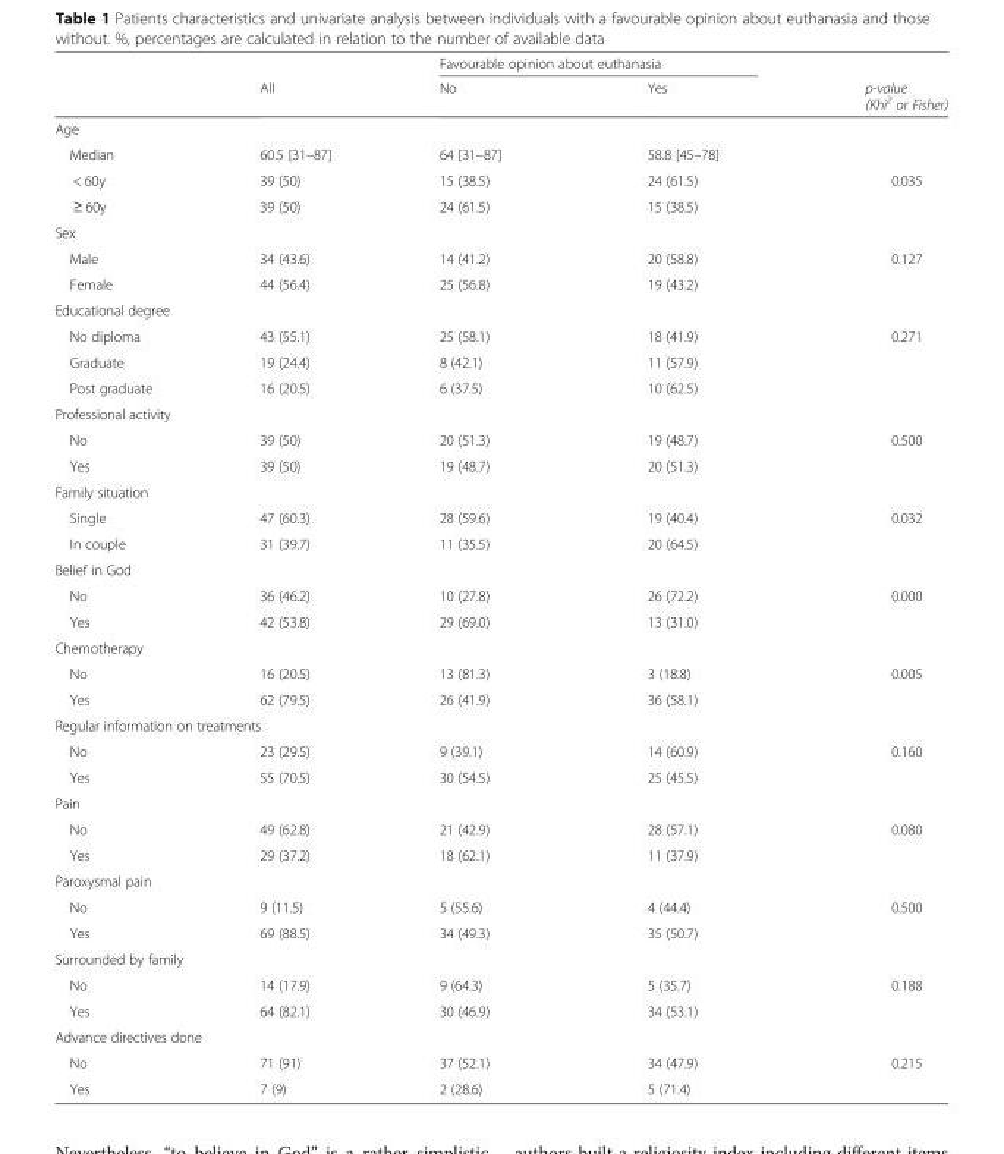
<table><thead><tr><td rowspan="2"></td><td rowspan="2">All</td><td colspan="2">Favourable opinion about euthanasia</td><td rowspan="2">p-value (Khi<sup>2</sup> or Fisher)</td></tr><tr><td>No</td><td>Yes</td></tr></thead><tbody><tr><td colspan="5">Age</td></tr><tr><td>Median</td><td>60.5 [31–87]</td><td>64 [31–87]</td><td>58.8 [45–78]</td><td></td></tr><tr><td>&lt; 60y</td><td>39 (50)</td><td>15 (38.5)</td><td>24 (61.5)</td><td>0.035</td></tr><tr><td>≥ 60y</td><td>39 (50)</td><td>24 (61.5)</td><td>15 (38.5)</td><td></td></tr><tr><td colspan="5">Sex</td></tr><tr><td>Male</td><td>34 (43.6)</td><td>14 (41.2)</td><td>20 (58.8)</td><td>0.127</td></tr><tr><td>Female</td><td>44 (56.4)</td><td>25 (56.8)</td><td>19 (43.2)</td><td></td></tr><tr><td colspan="5">Educational degree</td></tr><tr><td>No diploma</td><td>43 (55.1)</td><td>25 (58.1)</td><td>18 (41.9)</td><td>0.271</td></tr><tr><td>Graduate</td><td>19 (24.4)</td><td>8 (42.1)</td><td>11 (57.9)</td><td></td></tr><tr><td>Post graduate</td><td>16 (20.5)</td><td>6 (37.5)</td><td>10 (62.5)</td><td></td></tr><tr><td colspan="5">Professional activity</td></tr><tr><td>No</td><td>39 (50)</td><td>20 (51.3)</td><td>19 (48.7)</td><td>0.500</td></tr><tr><td>Yes</td><td>39 (50)</td><td>19 (48.7)</td><td>20 (51.3)</td><td></td></tr><tr><td colspan="5">Family situation</td></tr><tr><td>Single</td><td>47 (60.3)</td><td>28 (59.6)</td><td>19 (40.4)</td><td>0.032</td></tr><tr><td>In couple</td><td>31 (39.7)</td><td>11 (35.5)</td><td>20 (64.5)</td><td></td></tr><tr><td colspan="5">Belief in God</td></tr><tr><td>No</td><td>36 (46.2)</td><td>10 (27.8)</td><td>26 (72.2)</td><td>0.000</td></tr><tr><td>Yes</td><td>42 (53.8)</td><td>29 (69.0)</td><td>13 (31.0)</td><td></td></tr><tr><td colspan="5">Chemotherapy</td></tr><tr><td>No</td><td>16 (20.5)</td><td>13 (81.3)</td><td>3 (18.8)</td><td>0.005</td></tr><tr><td>Yes</td><td>62 (79.5)</td><td>26 (41.9)</td><td>36 (58.1)</td><td></td></tr><tr><td colspan="5">Regular information on treatments</td></tr><tr><td>No</td><td>23 (29.5)</td><td>9 (39.1)</td><td>14 (60.9)</td><td>0.160</td></tr><tr><td>Yes</td><td>55 (70.5)</td><td>30 (54.5)</td><td>25 (45.5)</td><td></td></tr><tr><td colspan="5">Pain</td></tr><tr><td>No</td><td>49 (62.8)</td><td>21 (42.9)</td><td>28 (57.1)</td><td>0.080</td></tr><tr><td>Yes</td><td>29 (37.2)</td><td>18 (62.1)</td><td>11 (37.9)</td><td></td></tr><tr><td colspan="5">Paroxysmal pain</td></tr><tr><td>No</td><td>9 (11.5)</td><td>5 (55.6)</td><td>4 (44.4)</td><td>0.500</td></tr><tr><td>Yes</td><td>69 (88.5)</td><td>34 (49.3)</td><td>35 (50.7)</td><td></td></tr><tr><td colspan="5">Surrounded by family</td></tr><tr><td>No</td><td>14 (17.9)</td><td>9 (64.3)</td><td>5 (35.7)</td><td>0.188</td></tr><tr><td>Yes</td><td>64 (82.1)</td><td>30 (46.9)</td><td>34 (53.1)</td><td></td></tr><tr><td colspan="5">Advance directives done</td></tr><tr><td>No</td><td>71 (91)</td><td>37 (52.1)</td><td>34 (47.9)</td><td>0.215</td></tr><tr><td>Yes</td><td>7 (9)</td><td>2 (28.6)</td><td>5 (71.4)</td><td></td></tr></tbody></table>